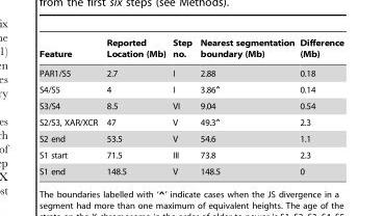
<table><thead><tr><td>Feature</td><td>Reported Location (Mb)</td><td>Step no.</td><td>Nearest segmentation boundary (Mb)</td><td>Difference (Mb)</td></tr></thead><tbody><tr><td>PAR1/S5</td><td>2.7</td><td>I</td><td>2.88</td><td>0.18</td></tr><tr><td>S4/S5</td><td>4</td><td>I</td><td>3.86ˆ</td><td>0.14</td></tr><tr><td>S3/S4</td><td>8.5</td><td>VI</td><td>9.04</td><td>0.54</td></tr><tr><td>S2/S3, XAR/XCR</td><td>47</td><td>V</td><td>49.3ˆ</td><td>2.3</td></tr><tr><td>S2 end</td><td>53.5</td><td>V</td><td>54.6</td><td>1.1</td></tr><tr><td>S1 start</td><td>71.5</td><td>III</td><td>73.8</td><td>2.3</td></tr><tr><td>S1 end</td><td>148.5</td><td>V</td><td>148.5</td><td>0</td></tr></tbody></table>